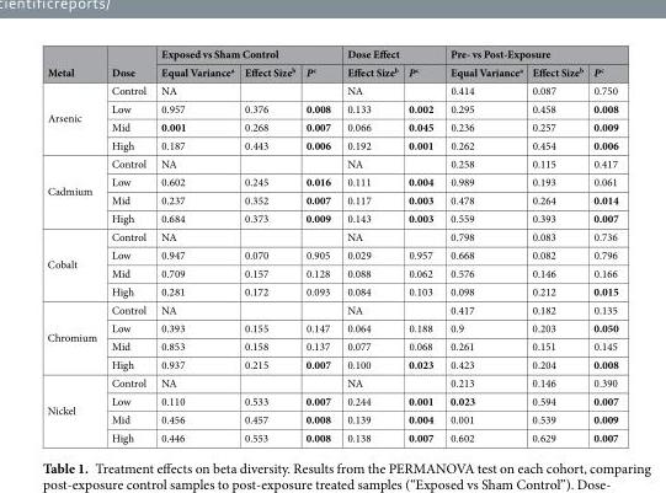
<table><thead><tr><td rowspan="2">Metal</td><td rowspan="2">Dose</td><td colspan="3">Exposed vs Sham Control</td><td colspan="2">Dose Effect</td><td colspan="3">Pre- vs Post-Exposure</td></tr><tr><td>Equal Variance<sup>a</sup></td><td>Effect Size<sup>b</sup></td><td>P <sup>c</sup></td><td>Effect Size<sup>b</sup></td><td>P <sup>c</sup></td><td>Equal Variance<sup>a</sup></td><td>Effect Size<sup>b</sup></td><td>P <sup>c</sup></td></tr></thead><tbody><tr><td rowspan="4">Arsenic</td><td>Control</td><td>NA</td><td></td><td></td><td>NA</td><td></td><td>0.414</td><td>0.087</td><td>0.750</td></tr><tr><td>Low</td><td>0.957</td><td>0.376</td><td>0.008</td><td>0.133</td><td>0.002</td><td>0.295</td><td>0.458</td><td>0.008</td></tr><tr><td>Mid</td><td>0.001</td><td>0.268</td><td>0.007</td><td>0.066</td><td>0.045</td><td>0.236</td><td>0.257</td><td>0.009</td></tr><tr><td>High</td><td>0.187</td><td>0.443</td><td>0.006</td><td>0.192</td><td>0.001</td><td>0.262</td><td>0.454</td><td>0.006</td></tr><tr><td rowspan="4">Cadmium</td><td>Control</td><td>NA</td><td></td><td></td><td>NA</td><td></td><td>0.258</td><td>0.115</td><td>0.417</td></tr><tr><td>Low</td><td>0.602</td><td>0.245</td><td>0.016</td><td>0.111</td><td>0.004</td><td>0.989</td><td>0.193</td><td>0.061</td></tr><tr><td>Mid</td><td>0.237</td><td>0.352</td><td>0.007</td><td>0.117</td><td>0.003</td><td>0.478</td><td>0.264</td><td>0.014</td></tr><tr><td>High</td><td>0.684</td><td>0.373</td><td>0.009</td><td>0.143</td><td>0.003</td><td>0.559</td><td>0.393</td><td>0.007</td></tr><tr><td rowspan="4">Cobalt</td><td>Control</td><td>NA</td><td></td><td></td><td>NA</td><td></td><td>0.798</td><td>0.083</td><td>0.736</td></tr><tr><td>Low</td><td>0.947</td><td>0.070</td><td>0.905</td><td>0.029</td><td>0.957</td><td>0.668</td><td>0.082</td><td>0.796</td></tr><tr><td>Mid</td><td>0.709</td><td>0.157</td><td>0.128</td><td>0.088</td><td>0.062</td><td>0.576</td><td>0.146</td><td>0.166</td></tr><tr><td>High</td><td>0.281</td><td>0.172</td><td>0.093</td><td>0.084</td><td>0.103</td><td>0.098</td><td>0.212</td><td>0.015</td></tr><tr><td rowspan="4">Chromium</td><td>Control</td><td>NA</td><td></td><td></td><td>NA</td><td></td><td>0.417</td><td>0.182</td><td>0.135</td></tr><tr><td>Low</td><td>0.393</td><td>0.155</td><td>0.147</td><td>0.064</td><td>0.188</td><td>0.9</td><td>0.203</td><td>0.050</td></tr><tr><td>Mid</td><td>0.853</td><td>0.158</td><td>0.137</td><td>0.077</td><td>0.068</td><td>0.261</td><td>0.151</td><td>0.145</td></tr><tr><td>High</td><td>0.937</td><td>0.215</td><td>0.007</td><td>0.100</td><td>0.023</td><td>0.423</td><td>0.204</td><td>0.008</td></tr><tr><td rowspan="4">Nickel</td><td>Control</td><td>NA</td><td></td><td></td><td>NA</td><td></td><td>0.213</td><td>0.146</td><td>0.390</td></tr><tr><td>Low</td><td>0.110</td><td>0.533</td><td>0.007</td><td>0.244</td><td>0.001</td><td>0.023</td><td>0.594</td><td>0.007</td></tr><tr><td>Mid</td><td>0.456</td><td>0.457</td><td>0.008</td><td>0.139</td><td>0.004</td><td>0.001</td><td>0.539</td><td>0.009</td></tr><tr><td>High</td><td>0.446</td><td>0.553</td><td>0.008</td><td>0.138</td><td>0.007</td><td>0.602</td><td>0.629</td><td>0.007</td></tr></tbody></table>